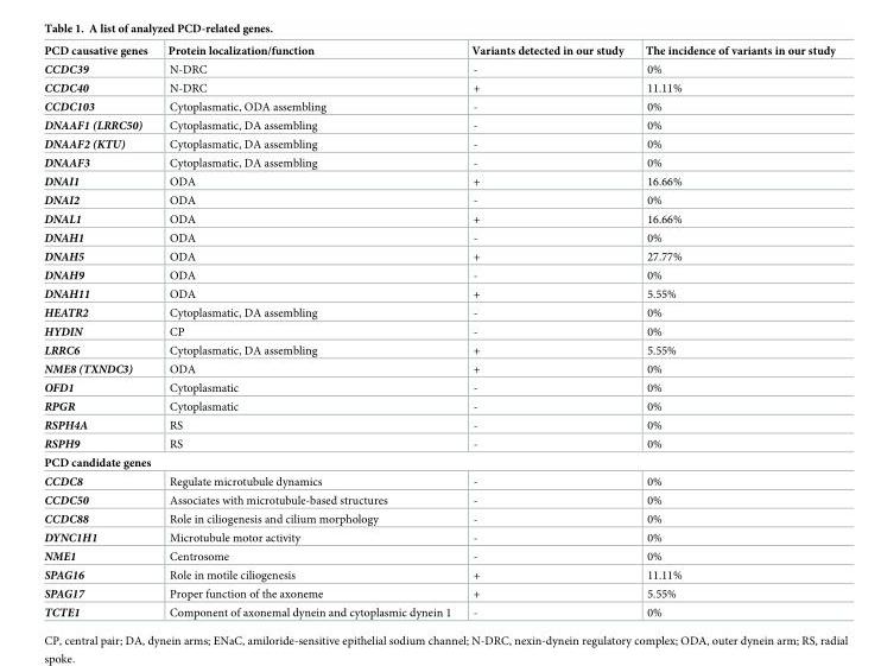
<table><thead><tr><td>PCD causative genes</td><td>Protein localization/function</td><td>Variants detected in our study</td><td>The incidence of variants in our study</td></tr></thead><tbody><tr><td>CCDC39</td><td>N-DRC</td><td>-</td><td>0%</td></tr><tr><td>CCDC40</td><td>N-DRC</td><td>+</td><td>11.11%</td></tr><tr><td>CCDC103</td><td>Cytoplasmatic, ODA assembling</td><td>-</td><td>0%</td></tr><tr><td>DNAAF1 (LRRC50)</td><td>Cytoplasmatic, DA assembling</td><td>-</td><td>0%</td></tr><tr><td>DNAAF2 (KTU)</td><td>Cytoplasmatic, DA assembling</td><td>-</td><td>0%</td></tr><tr><td>DNAAF3</td><td>Cytoplasmatic, DA assembling</td><td>-</td><td>0%</td></tr><tr><td>DNAI1</td><td>ODA</td><td>+</td><td>16.66%</td></tr><tr><td>DNAI2</td><td>ODA</td><td>-</td><td>0%</td></tr><tr><td>DNAL1</td><td>ODA</td><td>+</td><td>16.66%</td></tr><tr><td>DNAH1</td><td>ODA</td><td>-</td><td>0%</td></tr><tr><td>DNAH5</td><td>ODA</td><td>+</td><td>27.77%</td></tr><tr><td>DNAH9</td><td>ODA</td><td>-</td><td>0%</td></tr><tr><td>DNAH11</td><td>ODA</td><td>+</td><td>5.55%</td></tr><tr><td>HEATR2</td><td>Cytoplasmatic, DA assembling</td><td>-</td><td>0%</td></tr><tr><td>HYDIN</td><td>CP</td><td>-</td><td>0%</td></tr><tr><td>LRRC6</td><td>Cytoplasmatic, DA assembling</td><td>+</td><td>5.55%</td></tr><tr><td>NME8 (TXNDC3)</td><td>ODA</td><td>+</td><td>0%</td></tr><tr><td>OFD1</td><td>Cytoplasmatic</td><td>-</td><td>0%</td></tr><tr><td>RPGR</td><td>Cytoplasmatic</td><td>-</td><td>0%</td></tr><tr><td>RSPH4A</td><td>RS</td><td>-</td><td>0%</td></tr><tr><td>RSPH9</td><td>RS</td><td>-</td><td>0%</td></tr><tr><td colspan="4">PCD candidate genes</td></tr><tr><td>CCDC8</td><td>Regulate microtubule dynamics</td><td>-</td><td>0%</td></tr><tr><td>CCDC50</td><td>Associates with microtubule-based structures</td><td>-</td><td>0%</td></tr><tr><td>CCDC88</td><td>Role in ciliogenesis and cilium morphology</td><td>-</td><td>0%</td></tr><tr><td>DYNC1H1</td><td>Microtubule motor activity</td><td>-</td><td>0%</td></tr><tr><td>NME1</td><td>Centrosome</td><td>-</td><td>0%</td></tr><tr><td>SPAG16</td><td>Role in motile ciliogenesis</td><td>+</td><td>11.11%</td></tr><tr><td>SPAG17</td><td>Proper function of the axoneme</td><td>+</td><td>5.55%</td></tr><tr><td>TCTE1</td><td>Component of axonemal dynein and cytoplasmic dynein 1</td><td>-</td><td>0%</td></tr></tbody></table>